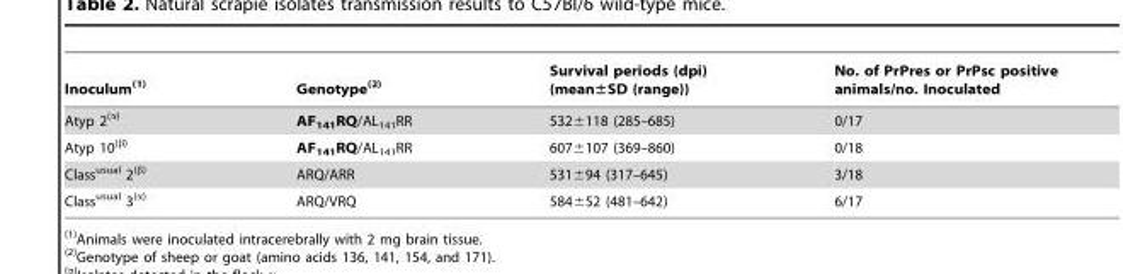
<table><thead><tr><td>Inoculum(1)</td><td>Genotype(2)</td><td>Survival periods (dpi) (mean±SD (range))</td><td>No. of PrPres or PrPsc positive animals/no. Inoculated</td></tr></thead><tbody><tr><td>Atyp 2(α)</td><td>AF<sub>141</sub>RQ/AL<sub>141</sub>RR</td><td>532±118 (285–685)</td><td>0/17</td></tr><tr><td>Atyp 10(β)</td><td>AF<sub>141</sub>RQ/AL<sub>141</sub>RR</td><td>607±107 (369–860)</td><td>0/18</td></tr><tr><td>Class<sup>usual</sup> 2(β)</td><td>ARQ/ARR</td><td>531±94 (317–645)</td><td>3/18</td></tr><tr><td>Class<sup>usual</sup> 3(α)</td><td>ARQ/VRQ</td><td>584±52 (481–642)</td><td>6/17</td></tr></tbody></table>